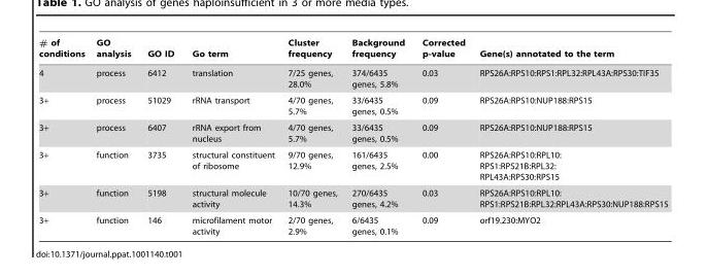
<table><thead><tr><td># of conditions</td><td>GO analysis</td><td>GO ID</td><td>Go term</td><td>Cluster frequency</td><td>Background frequency</td><td>Corrected p-value</td><td>Gene(s) annotated to the term</td></tr></thead><tbody><tr><td>4</td><td>process</td><td>6412</td><td>translation</td><td>7/25 genes, 28.0%</td><td>374/6435 genes, 5.8%</td><td>0.03</td><td>RPS26A:RPS10:RPS1:RPL32:RPL43A:RPS30:TIF35</td></tr><tr><td>3+</td><td>process</td><td>51029</td><td>rRNA transport</td><td>4/70 genes, 5.7%</td><td>33/6435 genes, 0.5%</td><td>0.09</td><td>RPS26A:RPS10:NUP188:RPS15</td></tr><tr><td>3+</td><td>process</td><td>6407</td><td>rRNA export from nucleus</td><td>4/70 genes, 5.7%</td><td>33/6435 genes, 0.5%</td><td>0.09</td><td>RPS26A:RPS10:NUP188:RPS15</td></tr><tr><td>3+</td><td>function</td><td>3735</td><td>structural constituent of ribosome</td><td>9/70 genes, 12.9%</td><td>161/6435 genes, 2.5%</td><td>0.00</td><td>RPS26A:RPS10:RPL10: RPS1:RPS21B:RPL32: RPL43A:RPS30:RPS15</td></tr><tr><td>3+</td><td>function</td><td>5198</td><td>structural molecule activity</td><td>10/70 genes, 14.3%</td><td>270/6435 genes, 4.2%</td><td>0.03</td><td>RPS26A:RPS10:RPL10: RPS1:RPS21B:RPL32:RPL43A:RPS30:NUP188:RPS15</td></tr><tr><td>3+</td><td>function</td><td>146</td><td>microfilament motor activity</td><td>2/70 genes, 2.9%</td><td>6/6435 genes, 0.1%</td><td>0.09</td><td>orf19.230:MYO2</td></tr></tbody></table>